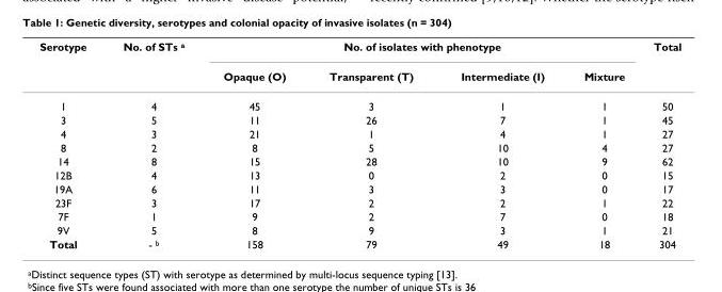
<table><thead><tr><td rowspan="2">Serotype</td><td rowspan="2">No. of STs a</td><td colspan="4">No. of isolates with phenotype</td><td rowspan="2">Total</td></tr><tr><td>Opaque (O)</td><td>Transparent (T)</td><td>Intermediate (I)</td><td>Mixture</td></tr></thead><tbody><tr><td>1</td><td>4</td><td>45</td><td>3</td><td>1</td><td>1</td><td>50</td></tr><tr><td>3</td><td>5</td><td>11</td><td>26</td><td>7</td><td>1</td><td>45</td></tr><tr><td>4</td><td>3</td><td>21</td><td>1</td><td>4</td><td>1</td><td>27</td></tr><tr><td>8</td><td>2</td><td>8</td><td>5</td><td>10</td><td>4</td><td>27</td></tr><tr><td>14</td><td>8</td><td>15</td><td>28</td><td>10</td><td>9</td><td>62</td></tr><tr><td>12B</td><td>4</td><td>13</td><td>0</td><td>2</td><td>0</td><td>15</td></tr><tr><td>19A</td><td>6</td><td>11</td><td>3</td><td>3</td><td>0</td><td>17</td></tr><tr><td>23F</td><td>3</td><td>17</td><td>2</td><td>2</td><td>1</td><td>22</td></tr><tr><td>7F</td><td>1</td><td>9</td><td>2</td><td>7</td><td>0</td><td>18</td></tr><tr><td>9V</td><td>5</td><td>8</td><td>9</td><td>3</td><td>1</td><td>21</td></tr><tr><td>Total</td><td>- b</td><td>158</td><td>79</td><td>49</td><td>18</td><td>304</td></tr></tbody></table>